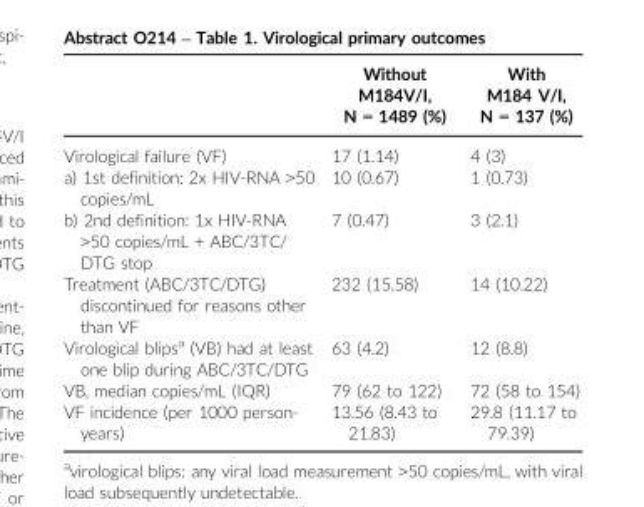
<table><thead><tr><td></td><td>Without M184V/I, N = 1489 (%)</td><td>With M184 V/I, N = 137 (%)</td></tr></thead><tbody><tr><td>Virological failure (VF)</td><td>17 (1.14)</td><td>4 (3)</td></tr><tr><td>a) 1st definition: 2x HIV-RNA &gt;50 copies/mL</td><td>10 (0.67)</td><td>1 (0.73)</td></tr><tr><td>b) 2nd definition: 1x HIV-RNA &gt;50 copies/mL + ABC/3TC/ DTG stop</td><td>7 (0.47)</td><td>3 (2.1)</td></tr><tr><td>Treatment (ABC/3TC/DTG) discontinued for reasons other than VF</td><td>232 (15.58)</td><td>14 (10.22)</td></tr><tr><td>Virological blips<sup>a</sup> (VB) had at least one blip during ABC/3TC/DTG</td><td>63 (4.2)</td><td>12 (8.8)</td></tr><tr><td>VB, median copies/mL (IQR)</td><td>79 (62 to 122)</td><td>72 (58 to 154)</td></tr><tr><td>VF incidence (per 1000 person- years)</td><td>13.56 (8.43 to 21.83)</td><td>29.8 (11.17 to 79.39)</td></tr></tbody></table>